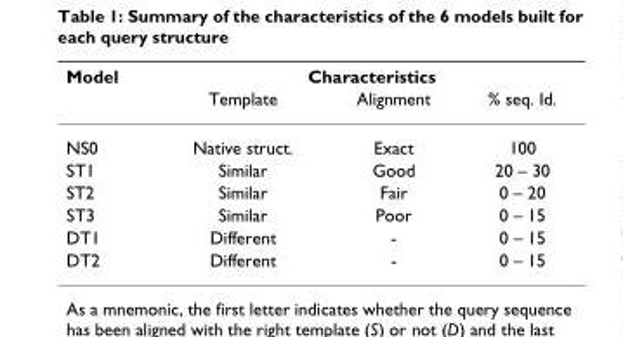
<table><thead><tr><td rowspan="2">Model</td><td colspan="3">Characteristics</td></tr><tr><td>Template</td><td>Alignment</td><td>% seq. Id.</td></tr></thead><tbody><tr><td>NS0</td><td>Native struct.</td><td>Exact</td><td>100</td></tr><tr><td>ST1</td><td>Similar</td><td>Good</td><td>20 – 30</td></tr><tr><td>ST2</td><td>Similar</td><td>Fair</td><td>0 – 20</td></tr><tr><td>ST3</td><td>Similar</td><td>Poor</td><td>0 – 15</td></tr><tr><td>DT1</td><td>Different</td><td>-</td><td>0 – 15</td></tr><tr><td>DT2</td><td>Different</td><td>-</td><td>0 – 15</td></tr></tbody></table>